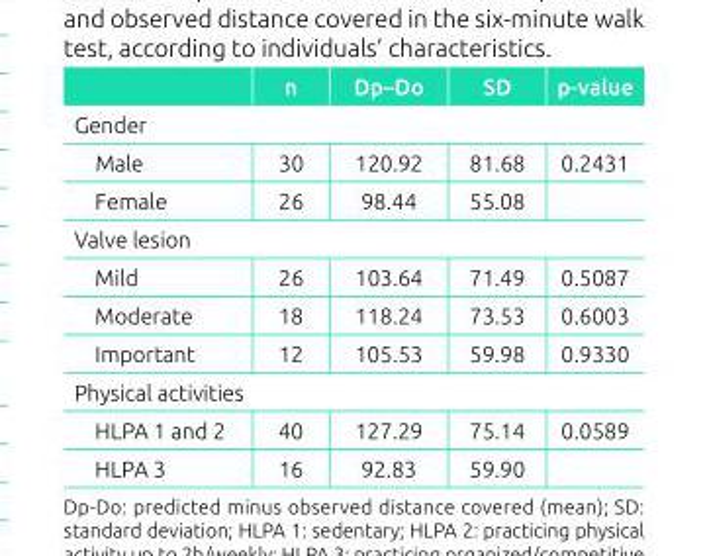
<table><thead><tr><td></td><td>n</td><td>Dp–Do</td><td>SD</td><td>p-value</td></tr></thead><tbody><tr><td colspan="5">Gender</td></tr><tr><td>Male</td><td>30</td><td>120.92</td><td>81.68</td><td>0.2431</td></tr><tr><td>Female</td><td>26</td><td>98.44</td><td>55.08</td><td></td></tr><tr><td colspan="5">Valve lesion</td></tr><tr><td>Mild</td><td>26</td><td>103.64</td><td>71.49</td><td>0.5087</td></tr><tr><td>Moderate</td><td>18</td><td>118.24</td><td>73.53</td><td>0.6003</td></tr><tr><td>Important</td><td>12</td><td>105.53</td><td>59.98</td><td>0.9330</td></tr><tr><td colspan="5">Physical activities</td></tr><tr><td>HLPA 1 and 2</td><td>40</td><td>127.29</td><td>75.14</td><td>0.0589</td></tr><tr><td>HLPA 3</td><td>16</td><td>92.83</td><td>59.90</td><td></td></tr></tbody></table>